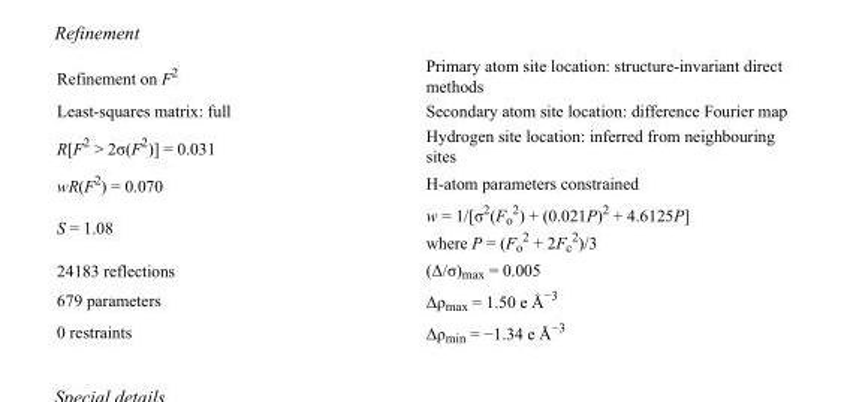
<table><tbody><tr><td>Refinement on F<sup>2</sup></td><td>Primary atom site location: structure-invariant direct methods</td></tr><tr><td>Least-squares matrix: full</td><td>Secondary atom site location: difference Fourier map</td></tr><tr><td>R[F<sup>2</sup> &gt; 2σ(F<sup>2</sup>)] = 0.031</td><td>Hydrogen site location: inferred from neighbouring sites</td></tr><tr><td>wR(F<sup>2</sup>) = 0.070</td><td>H-atom parameters constrained</td></tr><tr><td>S = 1.08</td><td>w = 1/[σ<sup>2</sup>(F<sub>o</sub> <sup>2</sup>) + (0.021P)<sup>2</sup> + 4.6125P] where P = (F<sub>o</sub> <sup>2</sup> + 2F<sub>c</sub> <sup>2</sup>)/3</td></tr><tr><td>24183 reflections</td><td>(Δ/σ)<sub>max</sub> = 0.005</td></tr><tr><td>679 parameters</td><td>Δρ<sub>max</sub> = 1.50 e Å<sup>−3</sup></td></tr><tr><td>0 restraints</td><td>Δρ<sub>min</sub> = −1.34 e Å<sup>−3</sup></td></tr></tbody></table>